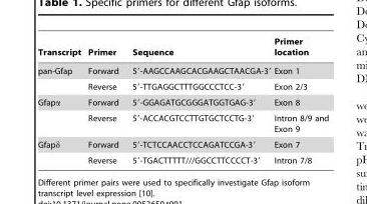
<table><thead><tr><td>Transcript</td><td>Primer</td><td>Sequence</td><td>Primer location</td></tr></thead><tbody><tr><td rowspan="2">pan-Gfap</td><td>Forward</td><td>5′-AAGCCAAGCACGAAGCTAACGA-3′</td><td>Exon 1</td></tr><tr><td>Reverse</td><td>5′-TTGAGGCTTTGGCCCTCC-3′</td><td>Exon 2/3</td></tr><tr><td rowspan="2">Gfapα</td><td>Forward</td><td>5′-GGAGATGCGGGATGGTGAG-3′</td><td>Exon 8</td></tr><tr><td>Reverse</td><td>5′-ACCACGTCCTTGTGCTCCTG-3′</td><td>Intron 8/9 and Exon 9</td></tr><tr><td rowspan="2">Gfapδ</td><td>Forward</td><td>5′-TCTCCAACCTCCAGATCCGA-3′</td><td>Exon 7</td></tr><tr><td>Reverse</td><td>5′-TGACTTTTT///GGCCTTCCCCT-3′</td><td>Intron 7/8</td></tr></tbody></table>